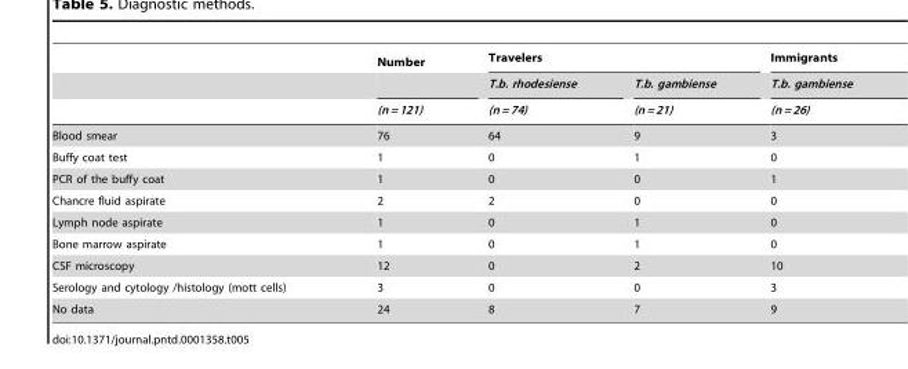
<table><thead><tr><td rowspan="3"></td><td rowspan="3">Number (n = 121)</td><td colspan="2">Travelers</td><td rowspan="3">Immigrants T.b. gambiense (n = 26)</td></tr><tr><td rowspan="2">T.b. rhodesiense (n = 74)</td><td rowspan="2">T.b. gambiense (n = 21)</td></tr><tr></tr></thead><tbody><tr><td>Blood smear</td><td>76</td><td>64</td><td>9</td><td>3</td></tr><tr><td>Buffy coat test</td><td>1</td><td>0</td><td>1</td><td>0</td></tr><tr><td>PCR of the buffy coat</td><td>1</td><td>0</td><td>0</td><td>1</td></tr><tr><td>Chancre fluid aspirate</td><td>2</td><td>2</td><td>0</td><td>0</td></tr><tr><td>Lymph node aspirate</td><td>1</td><td>0</td><td>1</td><td>0</td></tr><tr><td>Bone marrow aspirate</td><td>1</td><td>0</td><td>1</td><td>0</td></tr><tr><td>CSF microscopy</td><td>12</td><td>0</td><td>2</td><td>10</td></tr><tr><td>Serology and cytology /histology (mott cells)</td><td>3</td><td>0</td><td>0</td><td>3</td></tr><tr><td>No data</td><td>24</td><td>8</td><td>7</td><td>9</td></tr></tbody></table>